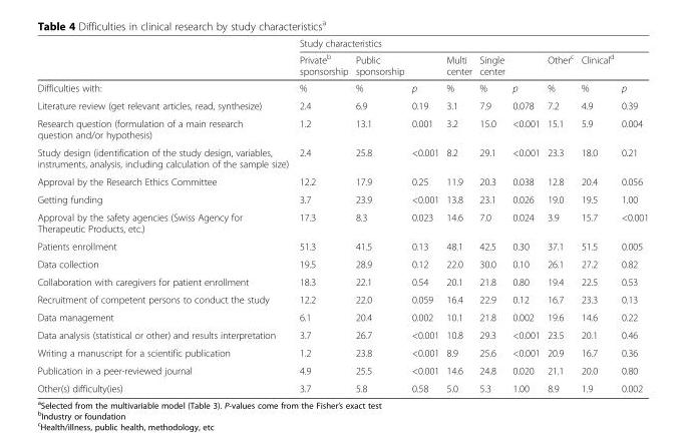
<table><thead><tr><td rowspan="2"></td><td colspan="9">Study characteristics</td></tr><tr><td>Private<sup>b</sup> sponsorship</td><td>Public sponsorship</td><td></td><td>Multi center</td><td>Single center</td><td></td><td>Other<sup>c</sup></td><td>Clinical<sup>d</sup></td><td></td></tr></thead><tbody><tr><td>Difficulties with:</td><td>%</td><td>%</td><td>p</td><td>%</td><td>%</td><td>p</td><td>%</td><td>%</td><td>p</td></tr><tr><td>Literature review (get relevant articles, read, synthesize)</td><td>2.4</td><td>6.9</td><td>0.19</td><td>3.1</td><td>7.9</td><td>0.078</td><td>7.2</td><td>4.9</td><td>0.39</td></tr><tr><td>Research question (formulation of a main research question and/or hypothesis)</td><td>1.2</td><td>13.1</td><td>0.001</td><td>3.2</td><td>15.0</td><td>&lt;0.001</td><td>15.1</td><td>5.9</td><td>0.004</td></tr><tr><td>Study design (identification of the study design, variables, instruments, analysis, including calculation of the sample size)</td><td>2.4</td><td>25.8</td><td>&lt;0.001</td><td>8.2</td><td>29.1</td><td>&lt;0.001</td><td>23.3</td><td>18.0</td><td>0.21</td></tr><tr><td>Approval by the Research Ethics Committee</td><td>12.2</td><td>17.9</td><td>0.25</td><td>11.9</td><td>20.3</td><td>0.038</td><td>12.8</td><td>20.4</td><td>0.056</td></tr><tr><td>Getting funding</td><td>3.7</td><td>23.9</td><td>&lt;0.001</td><td>13.8</td><td>23.1</td><td>0.026</td><td>19.0</td><td>19.5</td><td>1.00</td></tr><tr><td>Approval by the safety agencies (Swiss Agency for Therapeutic Products, etc.)</td><td>17.3</td><td>8.3</td><td>0.023</td><td>14.6</td><td>7.0</td><td>0.024</td><td>3.9</td><td>15.7</td><td>&lt;0.001</td></tr><tr><td>Patients enrollment</td><td>51.3</td><td>41.5</td><td>0.13</td><td>48.1</td><td>42.5</td><td>0.30</td><td>37.1</td><td>51.5</td><td>0.005</td></tr><tr><td>Data collection</td><td>19.5</td><td>28.9</td><td>0.12</td><td>22.0</td><td>30.0</td><td>0.10</td><td>26.1</td><td>27.2</td><td>0.82</td></tr><tr><td>Collaboration with caregivers for patient enrollment</td><td>18.3</td><td>22.1</td><td>0.54</td><td>20.1</td><td>21.8</td><td>0.80</td><td>19.4</td><td>22.5</td><td>0.53</td></tr><tr><td>Recruitment of competent persons to conduct the study</td><td>12.2</td><td>22.0</td><td>0.059</td><td>16.4</td><td>22.9</td><td>0.12</td><td>16.7</td><td>23.3</td><td>0.13</td></tr><tr><td>Data management</td><td>6.1</td><td>20.4</td><td>0.002</td><td>10.1</td><td>21.8</td><td>0.002</td><td>19.6</td><td>14.6</td><td>0.22</td></tr><tr><td>Data analysis (statistical or other) and results interpretation</td><td>3.7</td><td>26.7</td><td>&lt;0.001</td><td>10.8</td><td>29.3</td><td>&lt;0.001</td><td>23.5</td><td>20.1</td><td>0.46</td></tr><tr><td>Writing a manuscript for a scientific publication</td><td>1.2</td><td>23.8</td><td>&lt;0.001</td><td>8.9</td><td>25.6</td><td>&lt;0.001</td><td>20.9</td><td>16.7</td><td>0.36</td></tr><tr><td>Publication in a peer-reviewed journal</td><td>4.9</td><td>25.5</td><td>&lt;0.001</td><td>14.6</td><td>24.8</td><td>0.020</td><td>21.1</td><td>20.0</td><td>0.80</td></tr><tr><td>Other(s) difficulty(ies)</td><td>3.7</td><td>5.8</td><td>0.58</td><td>5.0</td><td>5.3</td><td>1.00</td><td>8.9</td><td>1.9</td><td>0.002</td></tr></tbody></table>